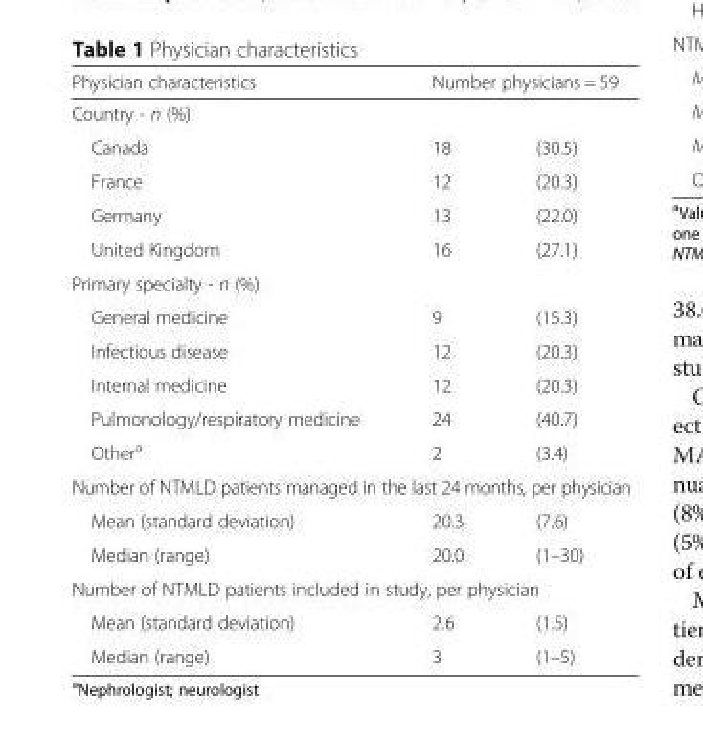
<table><thead><tr><td>Physician characteristics</td><td colspan="2">Number physicians = 59</td></tr><tr><td colspan="3">Country - n (%)</td></tr><tr><td>Canada</td><td>18</td><td>(30.5)</td></tr></thead><tbody><tr><td>France</td><td>12</td><td>(20.3)</td></tr><tr><td>Germany</td><td>13</td><td>(22.0)</td></tr><tr><td>United Kingdom</td><td>16</td><td>(27.1)</td></tr><tr><td colspan="3">Primary specialty - n (%)</td></tr><tr><td>General medicine</td><td>9</td><td>(15.3)</td></tr><tr><td>Infectious disease</td><td>12</td><td>(20.3)</td></tr><tr><td>Internal medicine</td><td>12</td><td>(20.3)</td></tr><tr><td>Pulmonology/respiratory medicine</td><td>24</td><td>(40.7)</td></tr><tr><td>Other<sup>a</sup></td><td>2</td><td>(3.4)</td></tr><tr><td colspan="3">Number of NTMLD patients managed in the last 24 months, per physician</td></tr><tr><td>Mean (standard deviation)</td><td>20.3</td><td>(7.6)</td></tr><tr><td>Median (range)</td><td>20.0</td><td>(1–30)</td></tr><tr><td colspan="3">Number of NTMLD patients included in study, per physician</td></tr><tr><td>Mean (standard deviation)</td><td>2.6</td><td>(1.5)</td></tr><tr><td>Median (range)</td><td>3</td><td>(1–5)</td></tr></tbody></table>